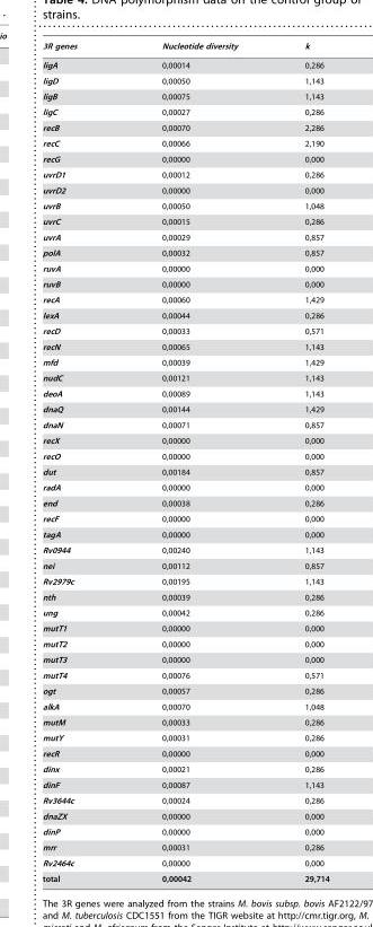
<table><thead><tr><td>3R genes</td><td>Nucleotide diversity</td><td>k</td></tr></thead><tbody><tr><td>ligA</td><td>0,00014</td><td>0,286</td></tr><tr><td>ligD</td><td>0,00050</td><td>1,143</td></tr><tr><td>ligB</td><td>0,00075</td><td>1,143</td></tr><tr><td>ligC</td><td>0,00027</td><td>0,286</td></tr><tr><td>recB</td><td>0,00070</td><td>2,286</td></tr><tr><td>recC</td><td>0,00066</td><td>2,190</td></tr><tr><td>recG</td><td>0,00000</td><td>0,000</td></tr><tr><td>uvrD1</td><td>0,00012</td><td>0,286</td></tr><tr><td>uvrD2</td><td>0,00000</td><td>0,000</td></tr><tr><td>uvrB</td><td>0,00050</td><td>1,048</td></tr><tr><td>uvrC</td><td>0,00015</td><td>0,286</td></tr><tr><td>uvrA</td><td>0,00029</td><td>0,857</td></tr><tr><td>polA</td><td>0,00032</td><td>0,857</td></tr><tr><td>ruvA</td><td>0,00000</td><td>0,000</td></tr><tr><td>ruvB</td><td>0,00000</td><td>0,000</td></tr><tr><td>recA</td><td>0,00060</td><td>1,429</td></tr><tr><td>lexA</td><td>0,00044</td><td>0,286</td></tr><tr><td>recD</td><td>0,00033</td><td>0,571</td></tr><tr><td>recN</td><td>0,00065</td><td>1,143</td></tr><tr><td>mfd</td><td>0,00039</td><td>1,429</td></tr><tr><td>nudC</td><td>0,00121</td><td>1,143</td></tr><tr><td>deoA</td><td>0,00089</td><td>1,143</td></tr><tr><td>dnaQ</td><td>0,00144</td><td>1,429</td></tr><tr><td>dnaN</td><td>0,00071</td><td>0,857</td></tr><tr><td>recX</td><td>0,00000</td><td>0,000</td></tr><tr><td>recO</td><td>0,00000</td><td>0,000</td></tr><tr><td>dut</td><td>0,00184</td><td>0,857</td></tr><tr><td>radA</td><td>0,00000</td><td>0,000</td></tr><tr><td>end</td><td>0,00038</td><td>0,286</td></tr><tr><td>recF</td><td>0,00000</td><td>0,000</td></tr><tr><td>tagA</td><td>0,00000</td><td>0,000</td></tr><tr><td>Rv0944</td><td>0,00240</td><td>1,143</td></tr><tr><td>nei</td><td>0,00112</td><td>0,857</td></tr><tr><td>Rv2979c</td><td>0,00195</td><td>1,143</td></tr><tr><td>nth</td><td>0,00039</td><td>0,286</td></tr><tr><td>ung</td><td>0,00042</td><td>0,286</td></tr><tr><td>mutT1</td><td>0,00000</td><td>0,000</td></tr><tr><td>mutT2</td><td>0,00000</td><td>0,000</td></tr><tr><td>mutT3</td><td>0,00000</td><td>0,000</td></tr><tr><td>mutT4</td><td>0,00076</td><td>0,571</td></tr><tr><td>ogt</td><td>0,00057</td><td>0,286</td></tr><tr><td>alkA</td><td>0,00070</td><td>1,048</td></tr><tr><td>mutM</td><td>0,00033</td><td>0,286</td></tr><tr><td>mutY</td><td>0,00031</td><td>0,286</td></tr><tr><td>recR</td><td>0,00000</td><td>0,000</td></tr><tr><td>dinx</td><td>0,00021</td><td>0,286</td></tr><tr><td>dinF</td><td>0,00087</td><td>1,143</td></tr><tr><td>Rv3644c</td><td>0,00024</td><td>0,286</td></tr><tr><td>dnaZX</td><td>0,00000</td><td>0,000</td></tr><tr><td>dinP</td><td>0,00000</td><td>0,000</td></tr><tr><td>mrr</td><td>0,00031</td><td>0,286</td></tr><tr><td>Rv2464c</td><td>0,00000</td><td>0,000</td></tr><tr><td>total</td><td>0,00042</td><td>29,714</td></tr></tbody></table>